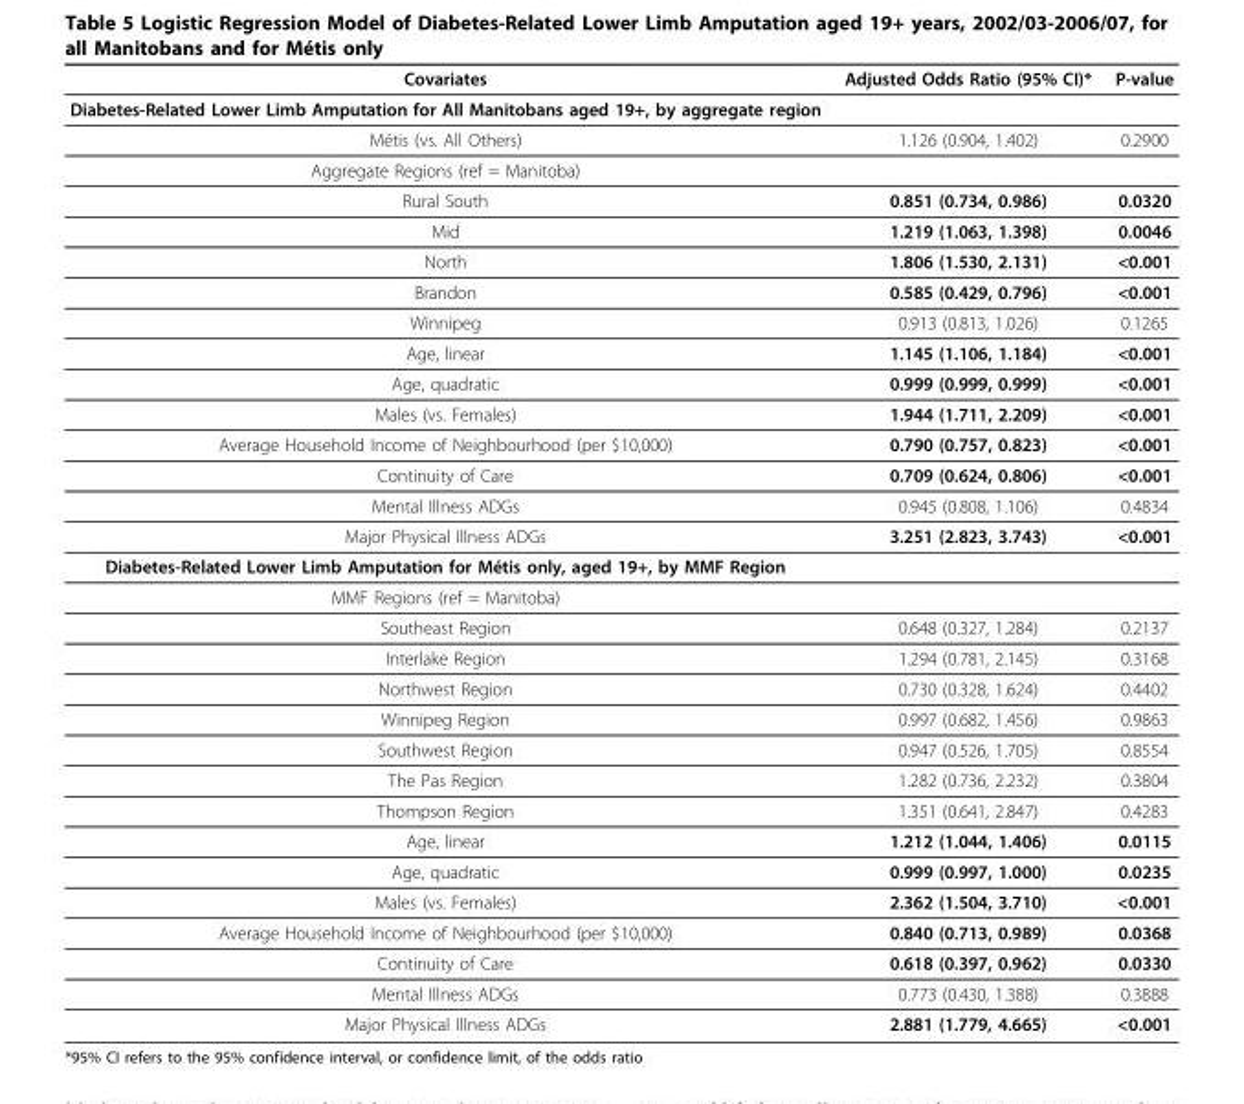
<table><thead><tr><td>Covariates</td><td>Adjusted Odds Ratio (95% CI)*</td><td>P-value</td></tr></thead><tbody><tr><td colspan="3">Diabetes-Related Lower Limb Amputation for All Manitobans aged 19+, by aggregate region</td></tr><tr><td>Métis (vs. All Others)</td><td>1.126 (0.904, 1.402)</td><td>0.2900</td></tr><tr><td colspan="3">Aggregate Regions (ref = Manitoba)</td></tr><tr><td>Rural South</td><td>0.851 (0.734, 0.986)</td><td>0.0320</td></tr><tr><td>Mid</td><td>1.219 (1.063, 1.398)</td><td>0.0046</td></tr><tr><td>North</td><td>1.806 (1.530, 2.131)</td><td>&lt;0.001</td></tr><tr><td>Brandon</td><td>0.585 (0.429, 0.796)</td><td>&lt;0.001</td></tr><tr><td>Winnipeg</td><td>0.913 (0.813, 1.026)</td><td>0.1265</td></tr><tr><td>Age, linear</td><td>1.145 (1.106, 1.184)</td><td>&lt;0.001</td></tr><tr><td>Age, quadratic</td><td>0.999 (0.999, 0.999)</td><td>&lt;0.001</td></tr><tr><td>Males (vs. Females)</td><td>1.944 (1.711, 2.209)</td><td>&lt;0.001</td></tr><tr><td>Average Household Income of Neighbourhood (per $10,000)</td><td>0.790 (0.757, 0.823)</td><td>&lt;0.001</td></tr><tr><td>Continuity of Care</td><td>0.709 (0.624, 0.806)</td><td>&lt;0.001</td></tr><tr><td>Mental Illness ADGs</td><td>0.945 (0.808, 1.106)</td><td>0.4834</td></tr><tr><td>Major Physical Illness ADGs</td><td>3.251 (2.823, 3.743)</td><td>&lt;0.001</td></tr><tr><td colspan="3">Diabetes-Related Lower Limb Amputation for Métis only, aged 19+, by MMF Region</td></tr><tr><td colspan="3">MMF Regions (ref = Manitoba)</td></tr><tr><td>Southeast Region</td><td>0.648 (0.327, 1.284)</td><td>0.2137</td></tr><tr><td>Interlake Region</td><td>1.294 (0.781, 2.145)</td><td>0.3168</td></tr><tr><td>Northwest Region</td><td>0.730 (0.328, 1.624)</td><td>0.4402</td></tr><tr><td>Winnipeg Region</td><td>0.997 (0.682, 1.456)</td><td>0.9863</td></tr><tr><td>Southwest Region</td><td>0.947 (0.526, 1.705)</td><td>0.8554</td></tr><tr><td>The Pas Region</td><td>1.282 (0.736, 2.232)</td><td>0.3804</td></tr><tr><td>Thompson Region</td><td>1.351 (0.641, 2.847)</td><td>0.4283</td></tr><tr><td>Age, linear</td><td>1.212 (1.044, 1.406)</td><td>0.0115</td></tr><tr><td>Age, quadratic</td><td>0.999 (0.997, 1.000)</td><td>0.0235</td></tr><tr><td>Males (vs. Females)</td><td>2.362 (1.504, 3.710)</td><td>&lt;0.001</td></tr><tr><td>Average Household Income of Neighbourhood (per $10,000)</td><td>0.840 (0.713, 0.989)</td><td>0.0368</td></tr><tr><td>Continuity of Care</td><td>0.618 (0.397, 0.962)</td><td>0.0330</td></tr><tr><td>Mental Illness ADGs</td><td>0.773 (0.430, 1.388)</td><td>0.3888</td></tr><tr><td>Major Physical Illness ADGs</td><td>2.881 (1.779, 4.665)</td><td>&lt;0.001</td></tr></tbody></table>